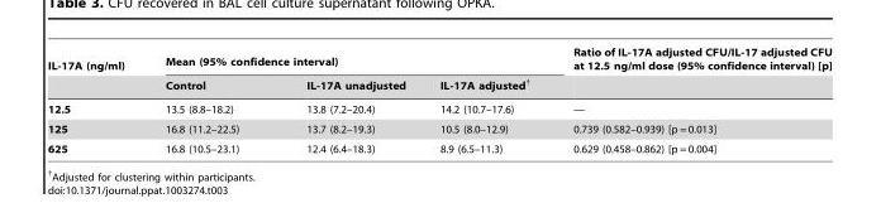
<table><thead><tr><td rowspan="2">IL-17A (ng/ml)</td><td colspan="3">Mean (95% confidence interval)</td><td rowspan="2">Ratio of IL-17A adjusted CFU/IL-17 adjusted CFU at 12.5 ng/ml dose (95% confidence interval) [p]</td></tr><tr><td>Control</td><td>IL-17A unadjusted</td><td>IL-17A adjusted†</td></tr></thead><tbody><tr><td>12.5</td><td>13.5 (8.8–18.2)</td><td>13.8 (7.2–20.4)</td><td>14.2 (10.7–17.6)</td><td>—</td></tr><tr><td>125</td><td>16.8 (11.2–22.5)</td><td>13.7 (8.2–19.3)</td><td>10.5 (8.0–12.9)</td><td>0.739 (0.582–0.939) [p = 0.013]</td></tr><tr><td>625</td><td>16.8 (10.5–23.1)</td><td>12.4 (6.4–18.3)</td><td>8.9 (6.5–11.3)</td><td>0.629 (0.458–0.862) [p = 0.004]</td></tr></tbody></table>